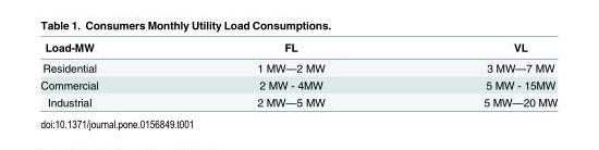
<table><thead><tr><td>Load-MW</td><td>FL</td><td>VL</td></tr></thead><tbody><tr><td>Residential</td><td>1 MW—2 MW</td><td>3 MW—7 MW</td></tr><tr><td>Commercial</td><td>2 MW - 4MW</td><td>5 MW - 15MW</td></tr><tr><td>Industrial</td><td>2 MW—5 MW</td><td>5 MW—20 MW</td></tr></tbody></table>